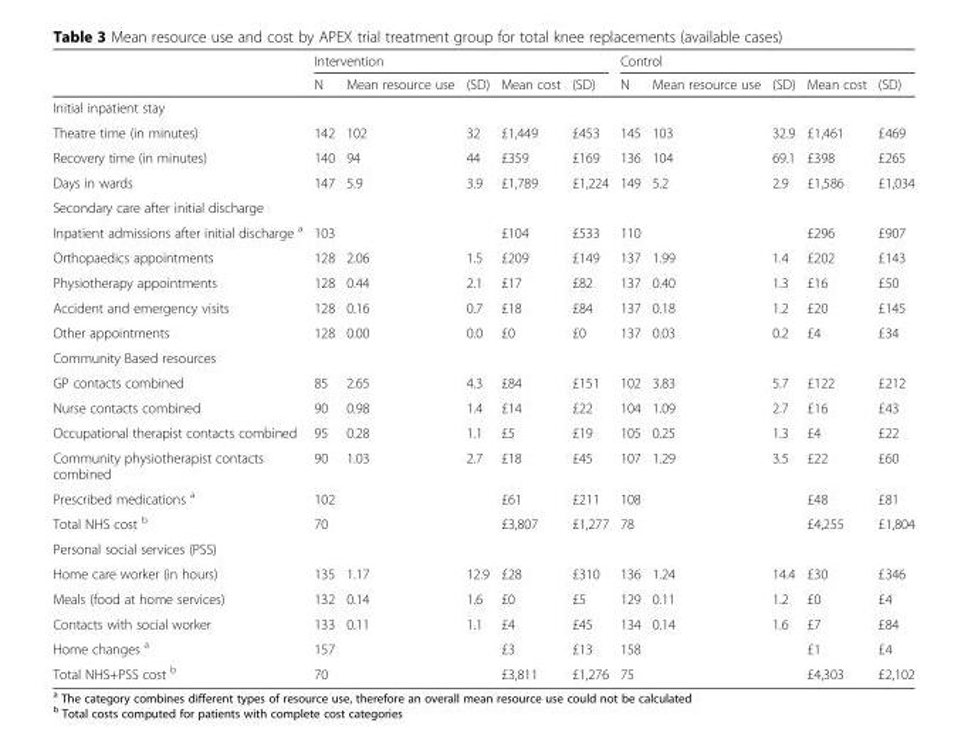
<table><thead><tr><td rowspan="2"></td><td colspan="5">Intervention</td><td colspan="5">Control</td></tr><tr><td>N</td><td>Mean resource use</td><td>(SD)</td><td>Mean cost</td><td>(SD)</td><td>N</td><td>Mean resource use</td><td>(SD)</td><td>Mean cost</td><td>(SD)</td></tr></thead><tbody><tr><td colspan="11">Initial inpatient stay</td></tr><tr><td>Theatre time (in minutes)</td><td>142</td><td>102</td><td>32</td><td>£1,449</td><td>£453</td><td>145</td><td>103</td><td>32.9</td><td>£1,461</td><td>£469</td></tr><tr><td>Recovery time (in minutes)</td><td>140</td><td>94</td><td>44</td><td>£359</td><td>£169</td><td>136</td><td>104</td><td>69.1</td><td>£398</td><td>£265</td></tr><tr><td>Days in wards</td><td>147</td><td>5.9</td><td>3.9</td><td>£1,789</td><td>£1,224</td><td>149</td><td>5.2</td><td>2.9</td><td>£1,586</td><td>£1,034</td></tr><tr><td colspan="11">Secondary care after initial discharge</td></tr><tr><td>Inpatient admissions after initial discharge <sup>a</sup></td><td>103</td><td></td><td></td><td>£104</td><td>£533</td><td>110</td><td></td><td></td><td>£296</td><td>£907</td></tr><tr><td>Orthopaedics appointments</td><td>128</td><td>2.06</td><td>1.5</td><td>£209</td><td>£149</td><td>137</td><td>1.99</td><td>1.4</td><td>£202</td><td>£143</td></tr><tr><td>Physiotherapy appointments</td><td>128</td><td>0.44</td><td>2.1</td><td>£17</td><td>£82</td><td>137</td><td>0.40</td><td>1.3</td><td>£16</td><td>£50</td></tr><tr><td>Accident and emergency visits</td><td>128</td><td>0.16</td><td>0.7</td><td>£18</td><td>£84</td><td>137</td><td>0.18</td><td>1.2</td><td>£20</td><td>£145</td></tr><tr><td>Other appointments</td><td>128</td><td>0.00</td><td>0.0</td><td>£0</td><td>£0</td><td>137</td><td>0.03</td><td>0.2</td><td>£4</td><td>£34</td></tr><tr><td colspan="11">Community Based resources</td></tr><tr><td>GP contacts combined</td><td>85</td><td>2.65</td><td>4.3</td><td>£84</td><td>£151</td><td>102</td><td>3.83</td><td>5.7</td><td>£122</td><td>£212</td></tr><tr><td>Nurse contacts combined</td><td>90</td><td>0.98</td><td>1.4</td><td>£14</td><td>£22</td><td>104</td><td>1.09</td><td>2.7</td><td>£16</td><td>£43</td></tr><tr><td>Occupational therapist contacts combined</td><td>95</td><td>0.28</td><td>1.1</td><td>£5</td><td>£19</td><td>105</td><td>0.25</td><td>1.3</td><td>£4</td><td>£22</td></tr><tr><td>Community physiotherapist contacts combined</td><td>90</td><td>1.03</td><td>2.7</td><td>£18</td><td>£45</td><td>107</td><td>1.29</td><td>3.5</td><td>£22</td><td>£60</td></tr><tr><td>Prescribed medications <sup>a</sup></td><td>102</td><td></td><td></td><td>£61</td><td>£211</td><td>108</td><td></td><td></td><td>£48</td><td>£81</td></tr><tr><td>Total NHS cost <sup>b</sup></td><td>70</td><td></td><td></td><td>£3,807</td><td>£1,277</td><td>78</td><td></td><td></td><td>£4,255</td><td>£1,804</td></tr><tr><td colspan="11">Personal social services (PSS)</td></tr><tr><td>Home care worker (in hours)</td><td>135</td><td>1.17</td><td>12.9</td><td>£28</td><td>£310</td><td>136</td><td>1.24</td><td>14.4</td><td>£30</td><td>£346</td></tr><tr><td>Meals (food at home services)</td><td>132</td><td>0.14</td><td>1.6</td><td>£0</td><td>£5</td><td>129</td><td>0.11</td><td>1.2</td><td>£0</td><td>£4</td></tr><tr><td>Contacts with social worker</td><td>133</td><td>0.11</td><td>1.1</td><td>£4</td><td>£45</td><td>134</td><td>0.14</td><td>1.6</td><td>£7</td><td>£84</td></tr><tr><td>Home changes <sup>a</sup></td><td>157</td><td></td><td></td><td>£3</td><td>£13</td><td>158</td><td></td><td></td><td>£1</td><td>£4</td></tr><tr><td>Total NHS+PSS cost <sup>b</sup></td><td>70</td><td></td><td></td><td>£3,811</td><td>£1,276</td><td>75</td><td></td><td></td><td>£4,303</td><td>£2,102</td></tr></tbody></table>